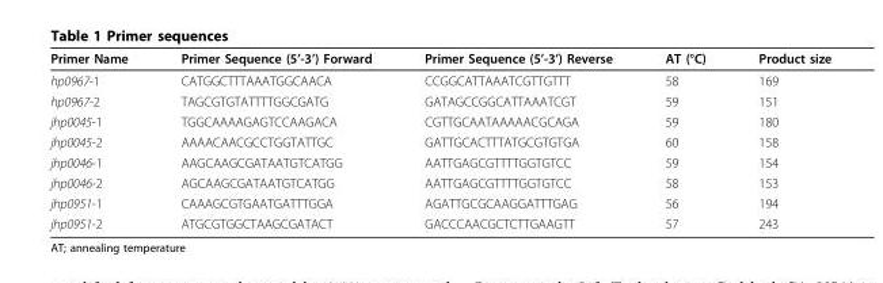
<table><thead><tr><td>Primer Name</td><td>Primer Sequence (5’-3’) Forward</td><td>Primer Sequence (5’-3’) Reverse</td><td>AT (°C)</td><td>Product size</td></tr></thead><tbody><tr><td>hp0967-1</td><td>CATGGCTTTAAATGGCAACA</td><td>CCGGCATTAAATCGTTGTTT</td><td>58</td><td>169</td></tr><tr><td>hp0967-2</td><td>TAGCGTGTATTTTGGCGATG</td><td>GATAGCCGGCATTAAATCGT</td><td>59</td><td>151</td></tr><tr><td>jhp0045-1</td><td>TGGCAAAAGAGTCCAAGACA</td><td>CGTTGCAATAAAAACGCAGA</td><td>59</td><td>180</td></tr><tr><td>jhp0045-2</td><td>AAAACAACGCCTGGTATTGC</td><td>GATTGCACTTTATGCGTGTGA</td><td>60</td><td>158</td></tr><tr><td>jhp0046-1</td><td>AAGCAAGCGATAATGTCATGG</td><td>AATTGAGCGTTTTGGTGTCC</td><td>59</td><td>154</td></tr><tr><td>jhp0046-2</td><td>AGCAAGCGATAATGTCATGG</td><td>AATTGAGCGTTTTGGTGTCC</td><td>58</td><td>153</td></tr><tr><td>jhp0951-1</td><td>CAAAGCGTGAATGATTTGGA</td><td>AGATTGCGCAAGGATTTGAG</td><td>56</td><td>194</td></tr><tr><td>jhp0951-2</td><td>ATGCGTGGCTAAGCGATACT</td><td>GACCCAACGCTCTTGAAGTT</td><td>57</td><td>243</td></tr></tbody></table>